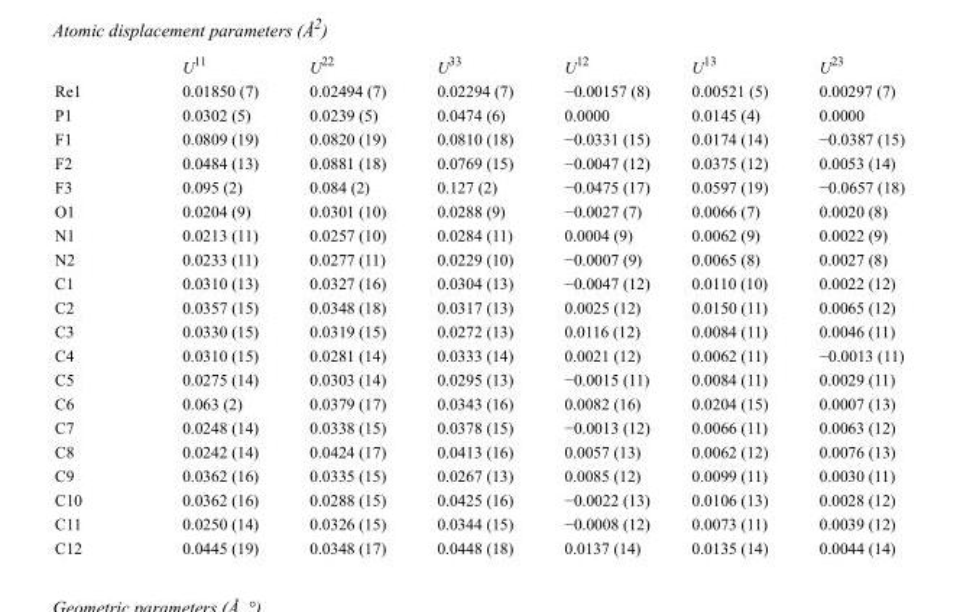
<table><thead><tr><td></td><td>U<sup>11</sup></td><td>U<sup>22</sup></td><td>U<sup>33</sup></td><td>U<sup>12</sup></td><td>U<sup>13</sup></td><td>U<sup>23</sup></td></tr></thead><tbody><tr><td>Re1</td><td>0.01850 (7)</td><td>0.02494 (7)</td><td>0.02294 (7)</td><td>−0.00157 (8)</td><td>0.00521 (5)</td><td>0.00297 (7)</td></tr><tr><td>P1</td><td>0.0302 (5)</td><td>0.0239 (5)</td><td>0.0474 (6)</td><td>0.0000</td><td>0.0145 (4)</td><td>0.0000</td></tr><tr><td>F1</td><td>0.0809 (19)</td><td>0.0820 (19)</td><td>0.0810 (18)</td><td>−0.0331 (15)</td><td>0.0174 (14)</td><td>−0.0387 (15)</td></tr><tr><td>F2</td><td>0.0484 (13)</td><td>0.0881 (18)</td><td>0.0769 (15)</td><td>−0.0047 (12)</td><td>0.0375 (12)</td><td>0.0053 (14)</td></tr><tr><td>F3</td><td>0.095 (2)</td><td>0.084 (2)</td><td>0.127 (2)</td><td>−0.0475 (17)</td><td>0.0597 (19)</td><td>−0.0657 (18)</td></tr><tr><td>O1</td><td>0.0204 (9)</td><td>0.0301 (10)</td><td>0.0288 (9)</td><td>−0.0027 (7)</td><td>0.0066 (7)</td><td>0.0020 (8)</td></tr><tr><td>N1</td><td>0.0213 (11)</td><td>0.0257 (10)</td><td>0.0284 (11)</td><td>0.0004 (9)</td><td>0.0062 (9)</td><td>0.0022 (9)</td></tr><tr><td>N2</td><td>0.0233 (11)</td><td>0.0277 (11)</td><td>0.0229 (10)</td><td>−0.0007 (9)</td><td>0.0065 (8)</td><td>0.0027 (8)</td></tr><tr><td>C1</td><td>0.0310 (13)</td><td>0.0327 (16)</td><td>0.0304 (13)</td><td>−0.0047 (12)</td><td>0.0110 (10)</td><td>0.0022 (12)</td></tr><tr><td>C2</td><td>0.0357 (15)</td><td>0.0348 (18)</td><td>0.0317 (13)</td><td>0.0025 (12)</td><td>0.0150 (11)</td><td>0.0065 (12)</td></tr><tr><td>C3</td><td>0.0330 (15)</td><td>0.0319 (15)</td><td>0.0272 (13)</td><td>0.0116 (12)</td><td>0.0084 (11)</td><td>0.0046 (11)</td></tr><tr><td>C4</td><td>0.0310 (15)</td><td>0.0281 (14)</td><td>0.0333 (14)</td><td>0.0021 (12)</td><td>0.0062 (11)</td><td>−0.0013 (11)</td></tr><tr><td>C5</td><td>0.0275 (14)</td><td>0.0303 (14)</td><td>0.0295 (13)</td><td>−0.0015 (11)</td><td>0.0084 (11)</td><td>0.0029 (11)</td></tr><tr><td>C6</td><td>0.063 (2)</td><td>0.0379 (17)</td><td>0.0343 (16)</td><td>0.0082 (16)</td><td>0.0204 (15)</td><td>0.0007 (13)</td></tr><tr><td>C7</td><td>0.0248 (14)</td><td>0.0338 (15)</td><td>0.0378 (15)</td><td>−0.0013 (12)</td><td>0.0066 (11)</td><td>0.0063 (12)</td></tr><tr><td>C8</td><td>0.0242 (14)</td><td>0.0424 (17)</td><td>0.0413 (16)</td><td>0.0057 (13)</td><td>0.0062 (12)</td><td>0.0076 (13)</td></tr><tr><td>C9</td><td>0.0362 (16)</td><td>0.0335 (15)</td><td>0.0267 (13)</td><td>0.0085 (12)</td><td>0.0099 (11)</td><td>0.0030 (11)</td></tr><tr><td>C10</td><td>0.0362 (16)</td><td>0.0288 (15)</td><td>0.0425 (16)</td><td>−0.0022 (13)</td><td>0.0106 (13)</td><td>0.0028 (12)</td></tr><tr><td>C11</td><td>0.0250 (14)</td><td>0.0326 (15)</td><td>0.0344 (15)</td><td>−0.0008 (12)</td><td>0.0073 (11)</td><td>0.0039 (12)</td></tr><tr><td>C12</td><td>0.0445 (19)</td><td>0.0348 (17)</td><td>0.0448 (18)</td><td>0.0137 (14)</td><td>0.0135 (14)</td><td>0.0044 (14)</td></tr></tbody></table>